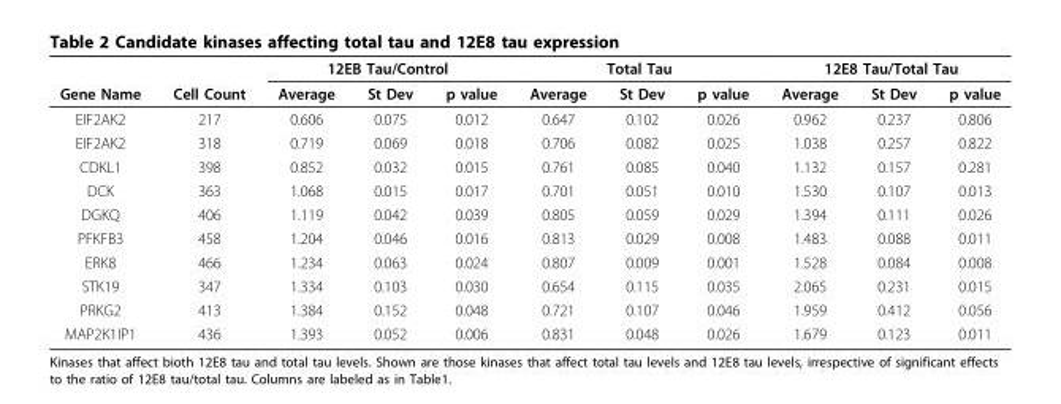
<table><thead><tr><td rowspan="2">Gene Name</td><td rowspan="2">Cell Count</td><td colspan="3">12EB Tau/Control</td><td colspan="3">Total Tau</td><td colspan="3">12E8 Tau/Total Tau</td></tr><tr><td>Average</td><td>St Dev</td><td>p value</td><td>Average</td><td>St Dev</td><td>p value</td><td>Average</td><td>St Dev</td><td>p value</td></tr></thead><tbody><tr><td>EIF2AK2</td><td>217</td><td>0.606</td><td>0.075</td><td>0.012</td><td>0.647</td><td>0.102</td><td>0.026</td><td>0.962</td><td>0.237</td><td>0.806</td></tr><tr><td>EIF2AK2</td><td>318</td><td>0.719</td><td>0.069</td><td>0.018</td><td>0.706</td><td>0.082</td><td>0.025</td><td>1.038</td><td>0.257</td><td>0.822</td></tr><tr><td>CDKL1</td><td>398</td><td>0.852</td><td>0.032</td><td>0.015</td><td>0.761</td><td>0.085</td><td>0.040</td><td>1.132</td><td>0.157</td><td>0.281</td></tr><tr><td>DCK</td><td>363</td><td>1.068</td><td>0.015</td><td>0.017</td><td>0.701</td><td>0.051</td><td>0.010</td><td>1.530</td><td>0.107</td><td>0.013</td></tr><tr><td>DGKQ</td><td>406</td><td>1.119</td><td>0.042</td><td>0.039</td><td>0.805</td><td>0.059</td><td>0.029</td><td>1.394</td><td>0.111</td><td>0.026</td></tr><tr><td>PFKFB3</td><td>458</td><td>1.204</td><td>0.046</td><td>0.016</td><td>0.813</td><td>0.029</td><td>0.008</td><td>1.483</td><td>0.088</td><td>0.011</td></tr><tr><td>ERK8</td><td>466</td><td>1.234</td><td>0.063</td><td>0.024</td><td>0.807</td><td>0.009</td><td>0.001</td><td>1.528</td><td>0.084</td><td>0.008</td></tr><tr><td>STK19</td><td>347</td><td>1.334</td><td>0.103</td><td>0.030</td><td>0.654</td><td>0.115</td><td>0.035</td><td>2.065</td><td>0.231</td><td>0.015</td></tr><tr><td>PRKG2</td><td>413</td><td>1.384</td><td>0.152</td><td>0.048</td><td>0.721</td><td>0.107</td><td>0.046</td><td>1.959</td><td>0.412</td><td>0.056</td></tr><tr><td>MAP2K1IP1</td><td>436</td><td>1.393</td><td>0.052</td><td>0.006</td><td>0.831</td><td>0.048</td><td>0.026</td><td>1.679</td><td>0.123</td><td>0.011</td></tr></tbody></table>